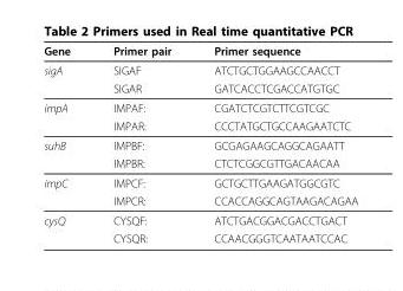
<table><thead><tr><td>Gene</td><td>Primer pair</td><td>Primer sequence</td></tr></thead><tbody><tr><td rowspan="2">sigA</td><td>SIGAF</td><td>ATCTGCTGGAAGCCAACCT</td></tr><tr><td>SIGAR</td><td>GATCACCTCGACCATGTGC</td></tr><tr><td rowspan="2">impA</td><td>IMPAF:</td><td>CGATCTCGTCTTCGTCGC</td></tr><tr><td>IMPAR:</td><td>CCCTATGCTGCCAAGAATCTC</td></tr><tr><td rowspan="2">suhB</td><td>IMPBF:</td><td>GCGAGAAGCAGGCAGAATT</td></tr><tr><td>IMPBR:</td><td>CTCTCGGCGTTGACAACAA</td></tr><tr><td rowspan="2">impC</td><td>IMPCF:</td><td>GCTGCTTGAAGATGGCGTC</td></tr><tr><td>IMPCR:</td><td>CCACCAGGCAGTAAGACAGAA</td></tr><tr><td rowspan="2">cysQ</td><td>CYSQF:</td><td>ATCTGACGGACGACCTGACT</td></tr><tr><td>CYSQR:</td><td>CCAACGGGTCAATAATCCAC</td></tr></tbody></table>